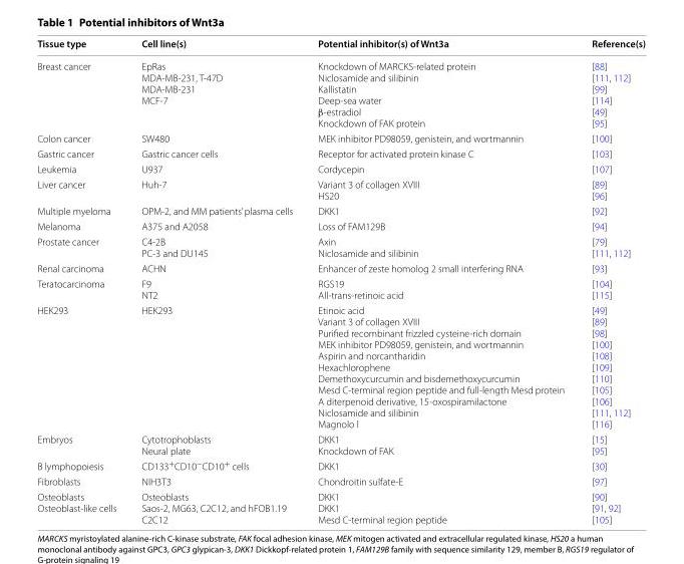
<table><thead><tr><td>Tissue type</td><td>Cell line(s)</td><td>Potential inhibitor(s) of Wnt3a</td><td>Reference(s)</td></tr></thead><tbody><tr><td>Breast cancer</td><td>EpRas MDA‑MB‑231, T‑47D MDA‑MB‑231 MCF‑7</td><td>Knockdown of MARCKS‑related protein Niclosamide and silibinin Kallistatin Deep‑sea water β‑estradiol Knockdown of FAK protein</td><td>[88] [111, 112] [99] [114] [49] [95]</td></tr><tr><td>Colon cancer</td><td>SW480</td><td>MEK inhibitor PD98059, genistein, and wortmannin</td><td>[100]</td></tr><tr><td>Gastric cancer</td><td>Gastric cancer cells</td><td>Receptor for activated protein kinase C</td><td>[103]</td></tr><tr><td>Leukemia</td><td>U937</td><td>Cordycepin</td><td>[107]</td></tr><tr><td>Liver cancer</td><td>Huh‑7</td><td>Variant 3 of collagen XVIII HS20</td><td>[89] [96]</td></tr><tr><td>Multiple myeloma</td><td>OPM‑2, and MM patients’ plasma cells</td><td>DKK1</td><td>[92]</td></tr><tr><td>Melanoma</td><td>A375 and A2058</td><td>Loss of FAM129B</td><td>[94]</td></tr><tr><td>Prostate cancer</td><td>C4‑2B PC‑3 and DU145</td><td>Axin Niclosamide and silibinin</td><td>[79] [111, 112]</td></tr><tr><td>Renal carcinoma</td><td>ACHN</td><td>Enhancer of zeste homolog 2 small interfering RNA</td><td>[93]</td></tr><tr><td>Teratocarcinoma</td><td>F9 NT2</td><td>RGS19 All‑trans‑retinoic acid</td><td>[104] [115]</td></tr><tr><td>HEK293</td><td>HEK293</td><td>Etinoic acid Variant 3 of collagen XVIII Purified recombinant frizzled cysteine‑rich domain MEK inhibitor PD98059, genistein, and wortmannin Aspirin and norcantharidin Hexachlorophene Demethoxycurcumin and bisdemethoxycurcumin Mesd C‑terminal region peptide and full‑length Mesd protein A diterpenoid derivative, 15‑oxospiramilactone Niclosamide and silibinin Magnolo l</td><td>[49] [89] [98] [100] [108] [109] [110] [105] [106] [111, 112] [116]</td></tr><tr><td>Embryos</td><td>Cytotrophoblasts Neural plate</td><td>DKK1 Knockdown of FAK</td><td>[15] [95]</td></tr><tr><td>B lymphopoiesis</td><td>CD133<sup>+</sup>CD10<sup>−</sup>CD10<sup>+</sup> cells</td><td>DKK1</td><td>[30]</td></tr><tr><td>Fibroblasts</td><td>NIH3T3</td><td>Chondroitin sulfate‑E</td><td>[97]</td></tr><tr><td>Osteoblasts Osteoblast‑like cells</td><td>Osteoblasts Saos‑2, MG63, C2C12, and hFOB1.19 C2C12</td><td>DKK1 DKK1 Mesd C‑terminal region peptide</td><td>[90] [91, 92] [105]</td></tr></tbody></table>